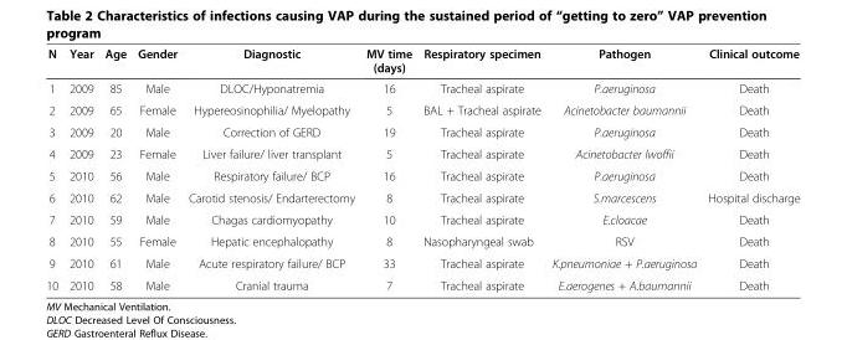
<table><thead><tr><td>N</td><td>Year</td><td>Age</td><td>Gender</td><td>Diagnostic</td><td>MV time (days)</td><td>Respiratory specimen</td><td>Pathogen</td><td>Clinical outcome</td></tr></thead><tbody><tr><td>1</td><td>2009</td><td>85</td><td>Male</td><td>DLOC/Hyponatremia</td><td>16</td><td>Tracheal aspirate</td><td>P.aeruginosa</td><td>Death</td></tr><tr><td>2</td><td>2009</td><td>65</td><td>Female</td><td>Hypereosinophilia/ Myelopathy</td><td>5</td><td>BAL + Tracheal aspirate</td><td>Acinetobacter baumannii</td><td>Death</td></tr><tr><td>3</td><td>2009</td><td>20</td><td>Male</td><td>Correction of GERD</td><td>19</td><td>Tracheal aspirate</td><td>P.aeruginosa</td><td>Death</td></tr><tr><td>4</td><td>2009</td><td>23</td><td>Female</td><td>Liver failure/ liver transplant</td><td>5</td><td>Tracheal aspirate</td><td>Acinetobacter lwoffii</td><td>Death</td></tr><tr><td>5</td><td>2010</td><td>56</td><td>Male</td><td>Respiratory failure/ BCP</td><td>16</td><td>Tracheal aspirate</td><td>P.aeruginosa</td><td>Death</td></tr><tr><td>6</td><td>2010</td><td>62</td><td>Male</td><td>Carotid stenosis/ Endarterectomy</td><td>8</td><td>Tracheal aspirate</td><td>S.marcescens</td><td>Hospital discharge</td></tr><tr><td>7</td><td>2010</td><td>59</td><td>Male</td><td>Chagas cardiomyopathy</td><td>10</td><td>Tracheal aspirate</td><td>E.cloacae</td><td>Death</td></tr><tr><td>8</td><td>2010</td><td>55</td><td>Female</td><td>Hepatic encephalopathy</td><td>8</td><td>Nasopharyngeal swab</td><td>RSV</td><td>Death</td></tr><tr><td>9</td><td>2010</td><td>61</td><td>Male</td><td>Acute respiratory failure/ BCP</td><td>33</td><td>Tracheal aspirate</td><td>K.pneumoniae + P.aeruginosa</td><td>Death</td></tr><tr><td>10</td><td>2010</td><td>58</td><td>Male</td><td>Cranial trauma</td><td>7</td><td>Tracheal aspirate</td><td>E.aerogenes + A.baumannii</td><td>Death</td></tr></tbody></table>